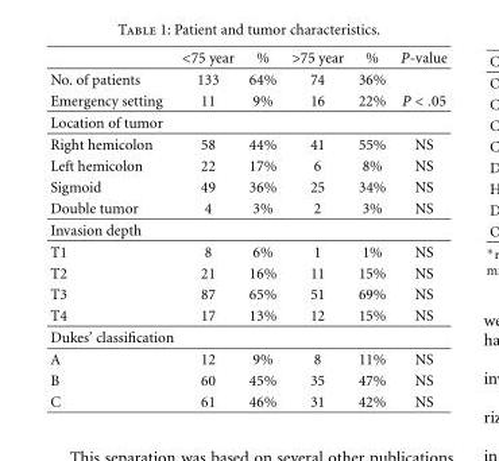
<table><thead><tr><td></td><td>&lt;75 year</td><td>%</td><td>&gt;75 year</td><td>%</td><td>P-value</td></tr></thead><tbody><tr><td>No. of patients</td><td>133</td><td>64%</td><td>74</td><td>36%</td><td></td></tr><tr><td>Emergency setting</td><td>11</td><td>9%</td><td>16</td><td>22%</td><td>P &lt; .05</td></tr><tr><td colspan="6">Location of tumor</td></tr><tr><td>Right hemicolon</td><td>58</td><td>44%</td><td>41</td><td>55%</td><td>NS</td></tr><tr><td>Left hemicolon</td><td>22</td><td>17%</td><td>6</td><td>8%</td><td>NS</td></tr><tr><td>Sigmoid</td><td>49</td><td>36%</td><td>25</td><td>34%</td><td>NS</td></tr><tr><td>Double tumor</td><td>4</td><td>3%</td><td>2</td><td>3%</td><td>NS</td></tr><tr><td colspan="6">Invasion depth</td></tr><tr><td>T1</td><td>8</td><td>6%</td><td>1</td><td>1%</td><td>NS</td></tr><tr><td>T2</td><td>21</td><td>16%</td><td>11</td><td>15%</td><td>NS</td></tr><tr><td>T3</td><td>87</td><td>65%</td><td>51</td><td>69%</td><td>NS</td></tr><tr><td>T4</td><td>17</td><td>13%</td><td>12</td><td>15%</td><td>NS</td></tr><tr><td colspan="6">Dukes’ classification</td></tr><tr><td>A</td><td>12</td><td>9%</td><td>8</td><td>11%</td><td>NS</td></tr><tr><td>B</td><td>60</td><td>45%</td><td>35</td><td>47%</td><td>NS</td></tr><tr><td>C</td><td>61</td><td>46%</td><td>31</td><td>42%</td><td>NS</td></tr></tbody></table>